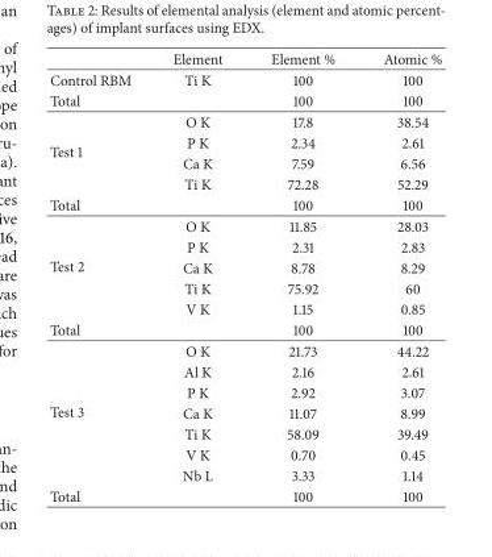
<table><thead><tr><td></td><td>Element</td><td>Element %</td><td>Atomic %</td></tr></thead><tbody><tr><td>Control RBM</td><td>Ti K</td><td>100</td><td>100</td></tr><tr><td>Total</td><td></td><td>100</td><td>100</td></tr><tr><td rowspan="4">Test 1</td><td>O K</td><td>17.8</td><td>38.54</td></tr><tr><td>P K</td><td>2.34</td><td>2.61</td></tr><tr><td>Ca K</td><td>7.59</td><td>6.56</td></tr><tr><td>Ti K</td><td>72.28</td><td>52.29</td></tr><tr><td>Total</td><td></td><td>100</td><td>100</td></tr><tr><td rowspan="5">Test 2</td><td>O K</td><td>11.85</td><td>28.03</td></tr><tr><td>P K</td><td>2.31</td><td>2.83</td></tr><tr><td>Ca K</td><td>8.78</td><td>8.29</td></tr><tr><td>Ti K</td><td>75.92</td><td>60</td></tr><tr><td>V K</td><td>1.15</td><td>0.85</td></tr><tr><td>Total</td><td></td><td>100</td><td>100</td></tr><tr><td rowspan="7">Test 3</td><td>O K</td><td>21.73</td><td>44.22</td></tr><tr><td>Al K</td><td>2.16</td><td>2.61</td></tr><tr><td>P K</td><td>2.92</td><td>3.07</td></tr><tr><td>Ca K</td><td>11.07</td><td>8.99</td></tr><tr><td>Ti K</td><td>58.09</td><td>39.49</td></tr><tr><td>V K</td><td>0.70</td><td>0.45</td></tr><tr><td>Nb L</td><td>3.33</td><td>1.14</td></tr><tr><td>Total</td><td></td><td>100</td><td>100</td></tr></tbody></table>